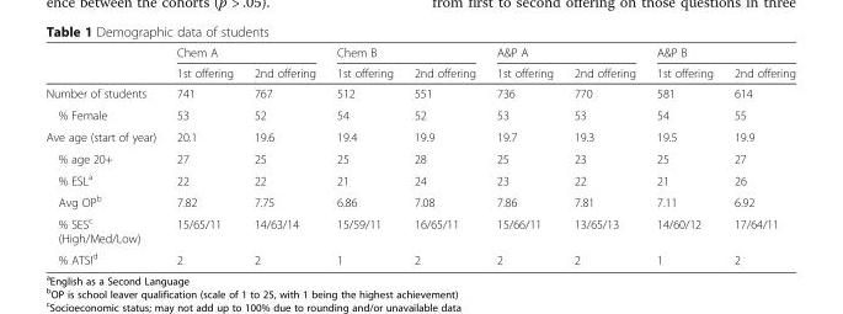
<table><thead><tr><td rowspan="2"></td><td colspan="2">Chem A</td><td colspan="2">Chem B</td><td colspan="2">A&amp;P A</td><td colspan="2">A&amp;P B</td></tr><tr><td>1st offering</td><td>2nd offering</td><td>1st offering</td><td>2nd offering</td><td>1st offering</td><td>2nd offering</td><td>1st offering</td><td>2nd offering</td></tr></thead><tbody><tr><td>Number of students</td><td>741</td><td>767</td><td>512</td><td>551</td><td>736</td><td>770</td><td>581</td><td>614</td></tr><tr><td>% Female</td><td>53</td><td>52</td><td>54</td><td>52</td><td>53</td><td>53</td><td>54</td><td>55</td></tr><tr><td>Ave age (start of year)</td><td>20.1</td><td>19.6</td><td>19.4</td><td>19.9</td><td>19.7</td><td>19.3</td><td>19.5</td><td>19.9</td></tr><tr><td>% age 20+</td><td>27</td><td>25</td><td>25</td><td>28</td><td>25</td><td>23</td><td>25</td><td>27</td></tr><tr><td>% ESL<sup>a</sup></td><td>22</td><td>22</td><td>21</td><td>24</td><td>23</td><td>22</td><td>21</td><td>26</td></tr><tr><td>Avg OP<sup>b</sup></td><td>7.82</td><td>7.75</td><td>6.86</td><td>7.08</td><td>7.86</td><td>7.81</td><td>7.11</td><td>6.92</td></tr><tr><td>% SES<sup>c</sup> (High/Med/Low)</td><td>15/65/11</td><td>14/63/14</td><td>15/59/11</td><td>16/65/11</td><td>15/66/11</td><td>13/65/13</td><td>14/60/12</td><td>17/64/11</td></tr><tr><td>% ATSI<sup>d</sup></td><td>2</td><td>2</td><td>1</td><td>2</td><td>2</td><td>2</td><td>1</td><td>2</td></tr></tbody></table>